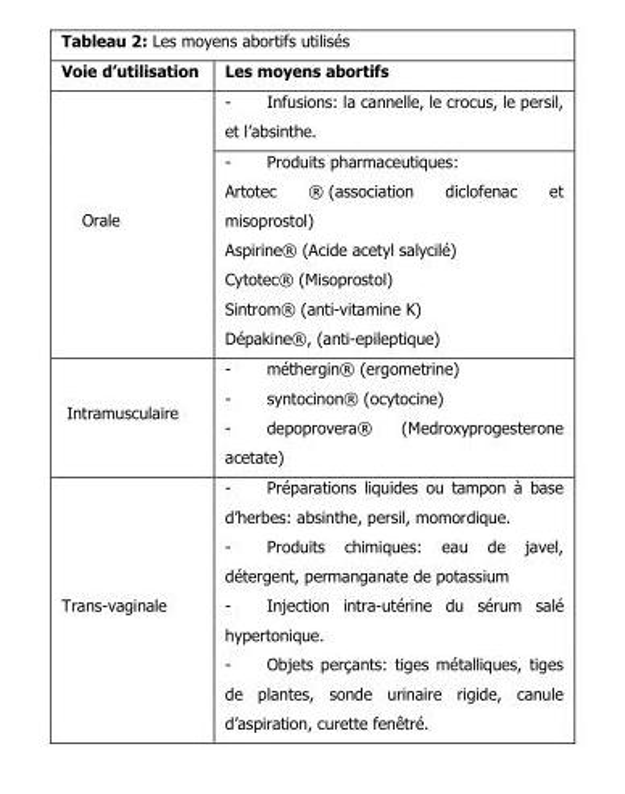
<table><thead><tr><td>Voie d’utilisation</td><td>Les moyens abortifs</td></tr></thead><tbody><tr><td rowspan="2">Orale</td><td>- Infusions: la cannelle, le crocus, le persil, et l’absinthe.</td></tr><tr><td>- Produits pharmaceutiques: Artotec <sup>®</sup> (association diclofenac et misoprostol) Aspirine<sup>®</sup> (Acide acetyl salycilé) Cytotec<sup>®</sup> (Misoprostol) Sintrom<sup>®</sup> (anti-vitamine K) Dépakine<sup>®</sup>, (anti-epileptique)</td></tr><tr><td>Intramusculaire</td><td>- méthergin<sup>®</sup> (ergometrine) - syntocinon<sup>®</sup> (ocytocine) - depoprovera<sup>®</sup> (Medroxyprogesterone acetate)</td></tr><tr><td>Trans-vaginale</td><td>- Préparations liquides ou tampon à base d’herbes: absinthe, persil, momordique. - Produits chimiques: eau de javel, détergent, permanganate de potassium - Injection intra-utérine du sérum salé hypertonique. - Objets perçants: tiges métalliques, tiges de plantes, sonde urinaire rigide, canule d’aspiration, curette fenêtré.</td></tr></tbody></table>